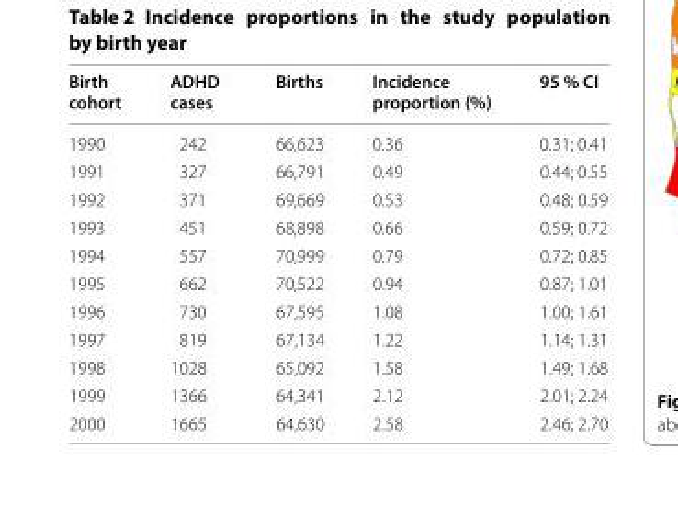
<table><thead><tr><td>Birth cohort</td><td>ADHD cases</td><td>Births</td><td>Incidence proportion (%)</td><td>95 % CI</td></tr></thead><tbody><tr><td>1990</td><td>242</td><td>66,623</td><td>0.36</td><td>0.31; 0.41</td></tr><tr><td>1991</td><td>327</td><td>66,791</td><td>0.49</td><td>0.44; 0.55</td></tr><tr><td>1992</td><td>371</td><td>69,669</td><td>0.53</td><td>0.48; 0.59</td></tr><tr><td>1993</td><td>451</td><td>68,898</td><td>0.66</td><td>0.59; 0.72</td></tr><tr><td>1994</td><td>557</td><td>70,999</td><td>0.79</td><td>0.72; 0.85</td></tr><tr><td>1995</td><td>662</td><td>70,522</td><td>0.94</td><td>0.87; 1.01</td></tr><tr><td>1996</td><td>730</td><td>67,595</td><td>1.08</td><td>1.00; 1.61</td></tr><tr><td>1997</td><td>819</td><td>67,134</td><td>1.22</td><td>1.14; 1.31</td></tr><tr><td>1998</td><td>1028</td><td>65,092</td><td>1.58</td><td>1.49; 1.68</td></tr><tr><td>1999</td><td>1366</td><td>64,341</td><td>2.12</td><td>2.01; 2.24</td></tr><tr><td>2000</td><td>1665</td><td>64,630</td><td>2.58</td><td>2.46; 2.70</td></tr></tbody></table>